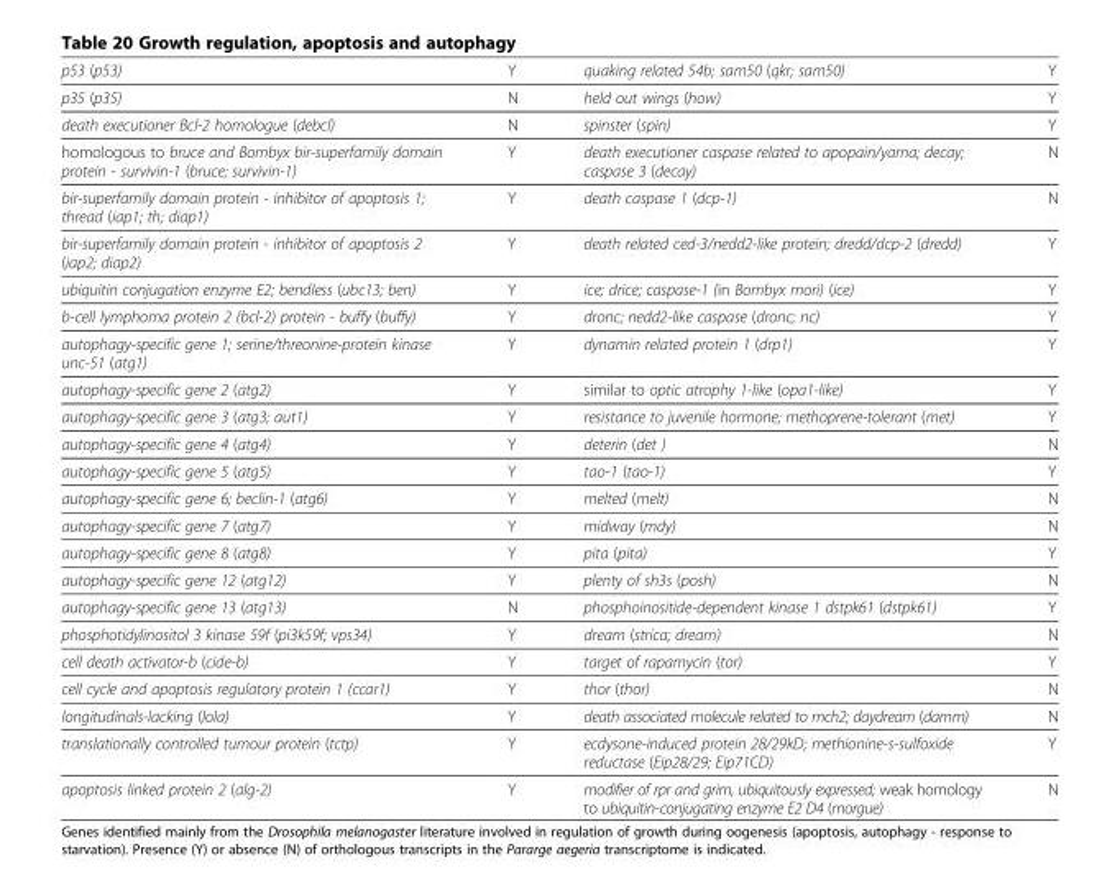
<table><tbody><tr><td>p53 (p53)</td><td>Y</td><td>quaking related 54b; sam50 (qkr; sam50)</td><td>Y</td></tr><tr><td>p35 (p35)</td><td>N</td><td>held out wings (how)</td><td>Y</td></tr><tr><td>death executioner Bcl-2 homologue (debcl)</td><td>N</td><td>spinster (spin)</td><td>Y</td></tr><tr><td>homologous to bruce and Bombyx bir-superfamily domain protein - survivin-1 (bruce; survivin-1)</td><td>Y</td><td>death executioner caspase related to apopain/yama; decay; caspase 3 (decay)</td><td>N</td></tr><tr><td>bir-superfamily domain protein - inhibitor of apoptosis 1; thread (iap1; th; diap1)</td><td>Y</td><td>death caspase 1 (dcp-1)</td><td>N</td></tr><tr><td>bir-superfamily domain protein - inhibitor of apoptosis 2 (iap2; diap2)</td><td>Y</td><td>death related ced-3/nedd2-like protein; dredd/dcp-2 (dredd)</td><td>Y</td></tr><tr><td>ubiquitin conjugation enzyme E2; bendless (ubc13; ben)</td><td>Y</td><td>ice; drice; caspase-1 (in Bombyx mori) (ice)</td><td>Y</td></tr><tr><td>b-cell lymphoma protein 2 (bcl-2) protein - buffy (buffy)</td><td>Y</td><td>dronc; nedd2-like caspase (dronc; nc)</td><td>Y</td></tr><tr><td>autophagy-specific gene 1; serine/threonine-protein kinase unc-51 (atg1)</td><td>Y</td><td>dynamin related protein 1 (drp1)</td><td>Y</td></tr><tr><td>autophagy-specific gene 2 (atg2)</td><td>Y</td><td>similar to optic atrophy 1-like (opa1-like)</td><td>Y</td></tr><tr><td>autophagy-specific gene 3 (atg3; aut1)</td><td>Y</td><td>resistance to juvenile hormone; methoprene-tolerant (met)</td><td>Y</td></tr><tr><td>autophagy-specific gene 4 (atg4)</td><td>Y</td><td>deterin (det )</td><td>N</td></tr><tr><td>autophagy-specific gene 5 (atg5)</td><td>Y</td><td>tao-1 (tao-1)</td><td>Y</td></tr><tr><td>autophagy-specific gene 6; beclin-1 (atg6)</td><td>Y</td><td>melted (melt)</td><td>N</td></tr><tr><td>autophagy-specific gene 7 (atg7)</td><td>Y</td><td>midway (mdy)</td><td>N</td></tr><tr><td>autophagy-specific gene 8 (atg8)</td><td>Y</td><td>pita (pita)</td><td>Y</td></tr><tr><td>autophagy-specific gene 12 (atg12)</td><td>Y</td><td>plenty of sh3s (posh)</td><td>N</td></tr><tr><td>autophagy-specific gene 13 (atg13)</td><td>N</td><td>phosphoinositide-dependent kinase 1 dstpk61 (dstpk61)</td><td>Y</td></tr><tr><td>phosphotidylinositol 3 kinase 59f (pi3k59f; vps34)</td><td>Y</td><td>dream (strica; dream)</td><td>N</td></tr><tr><td>cell death activator-b (cide-b)</td><td>Y</td><td>target of rapamycin (tor)</td><td>Y</td></tr><tr><td>cell cycle and apoptosis regulatory protein 1 (ccar1)</td><td>Y</td><td>thor (thor)</td><td>N</td></tr><tr><td>longitudinals-lacking (lola)</td><td>Y</td><td>death associated molecule related to mch2; daydream (damm)</td><td>N</td></tr><tr><td>translationally controlled tumour protein (tctp)</td><td>Y</td><td>ecdysone-induced protein 28/29kD; methionine-s-sulfoxide reductase (Eip28/29; Eip71CD)</td><td>Y</td></tr><tr><td>apoptosis linked protein 2 (alg-2)</td><td>Y</td><td>modifier of rpr and grim, ubiquitously expressed; weak homology to ubiquitin-conjugating enzyme E2 D4 (morgue)</td><td>N</td></tr></tbody></table>